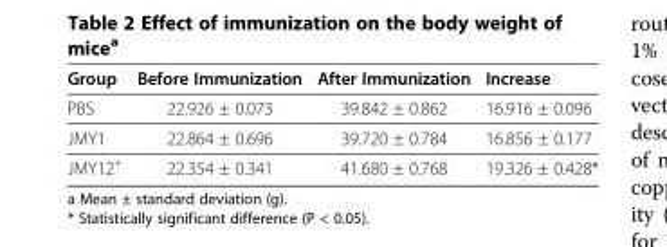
<table><thead><tr><td>Group</td><td>Before Immunization</td><td>After Immunization</td><td>Increase</td></tr></thead><tbody><tr><td>PBS</td><td>22.926 ± 0.073</td><td>39.842 ± 0.862</td><td>16.916 ± 0.096</td></tr><tr><td>JMY1</td><td>22.864 ± 0.696</td><td>39.720 ± 0.784</td><td>16.856 ± 0.177</td></tr><tr><td>JMY12<sup>+</sup></td><td>22.354 ± 0.341</td><td>41.680 ± 0.768</td><td>19.326 ± 0.428*</td></tr></tbody></table>